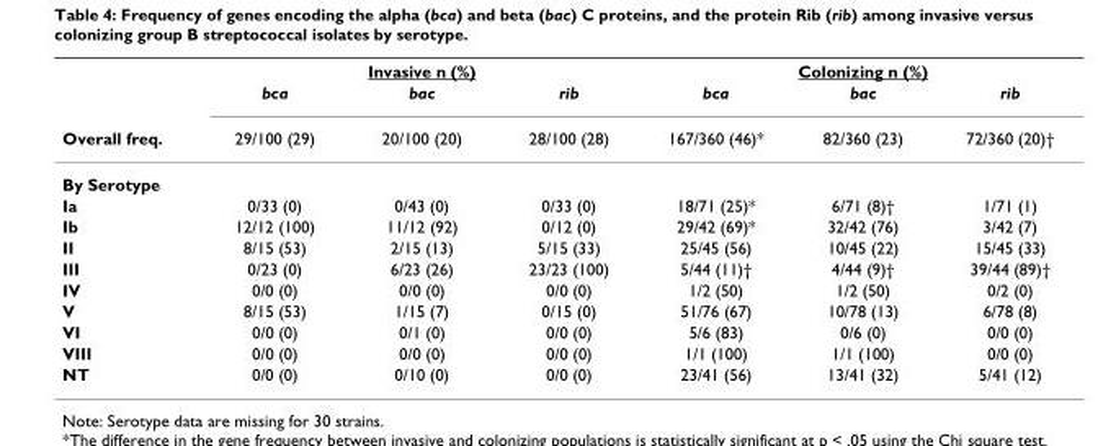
<table><thead><tr><td rowspan="3">Overall freq.</td><td colspan="3">Invasive n (%)</td><td colspan="3">Colonizing n (%)</td></tr><tr><td rowspan="2">bca 29/100 (29)</td><td rowspan="2">bac 20/100 (20)</td><td rowspan="2">rib 28/100 (28)</td><td rowspan="2">bca 167/360 (46)*</td><td rowspan="2">bac 82/360 (23)</td><td rowspan="2">rib 72/360 (20)†</td></tr><tr></tr></thead><tbody><tr><td colspan="7">By Serotype</td></tr><tr><td>Ia</td><td>0/33 (0)</td><td>0/43 (0)</td><td>0/33 (0)</td><td>18/71 (25)*</td><td>6/71 (8)†</td><td>1/71 (1)</td></tr><tr><td>Ib</td><td>12/12 (100)</td><td>11/12 (92)</td><td>0/12 (0)</td><td>29/42 (69)*</td><td>32/42 (76)</td><td>3/42 (7)</td></tr><tr><td>II</td><td>8/15 (53)</td><td>2/15 (13)</td><td>5/15 (33)</td><td>25/45 (56)</td><td>10/45 (22)</td><td>15/45 (33)</td></tr><tr><td>III</td><td>0/23 (0)</td><td>6/23 (26)</td><td>23/23 (100)</td><td>5/44 (11)†</td><td>4/44 (9)†</td><td>39/44 (89)†</td></tr><tr><td>IV</td><td>0/0 (0)</td><td>0/0 (0)</td><td>0/0 (0)</td><td>1/2 (50)</td><td>1/2 (50)</td><td>0/2 (0)</td></tr><tr><td>V</td><td>8/15 (53)</td><td>1/15 (7)</td><td>0/15 (0)</td><td>51/76 (67)</td><td>10/78 (13)</td><td>6/78 (8)</td></tr><tr><td>VI</td><td>0/0 (0)</td><td>0/1 (0)</td><td>0/0 (0)</td><td>5/6 (83)</td><td>0/6 (0)</td><td>0/0 (0)</td></tr><tr><td>VIII</td><td>0/0 (0)</td><td>0/0 (0)</td><td>0/0 (0)</td><td>1/1 (100)</td><td>1/1 (100)</td><td>0/0 (0)</td></tr><tr><td>NT</td><td>0/0 (0)</td><td>0/10 (0)</td><td>0/0 (0)</td><td>23/41 (56)</td><td>13/41 (32)</td><td>5/41 (12)</td></tr></tbody></table>